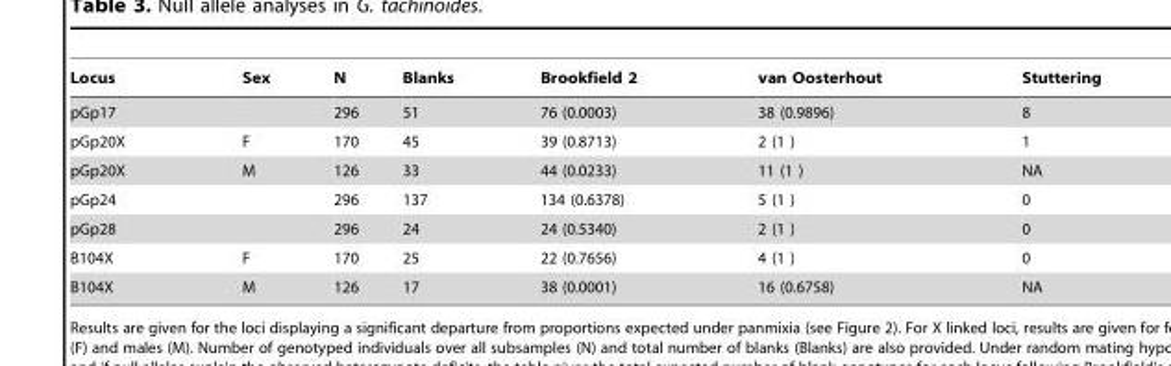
<table><thead><tr><td>Locus</td><td>Sex</td><td>N</td><td>Blanks</td><td>Brookfield 2</td><td>van Oosterhout</td><td>Stuttering</td></tr></thead><tbody><tr><td>pGp17</td><td></td><td>296</td><td>51</td><td>76 (0.0003)</td><td>38 (0.9896)</td><td>8</td></tr><tr><td>pGp20X</td><td>F</td><td>170</td><td>45</td><td>39 (0.8713)</td><td>2 (1 )</td><td>1</td></tr><tr><td>pGp20X</td><td>M</td><td>126</td><td>33</td><td>44 (0.0233)</td><td>11 (1 )</td><td>NA</td></tr><tr><td>pGp24</td><td></td><td>296</td><td>137</td><td>134 (0.6378)</td><td>5 (1 )</td><td>0</td></tr><tr><td>pGp28</td><td></td><td>296</td><td>24</td><td>24 (0.5340)</td><td>2 (1 )</td><td>0</td></tr><tr><td>B104X</td><td>F</td><td>170</td><td>25</td><td>22 (0.7656)</td><td>4 (1 )</td><td>0</td></tr><tr><td>B104X</td><td>M</td><td>126</td><td>17</td><td>38 (0.0001)</td><td>16 (0.6758)</td><td>NA</td></tr></tbody></table>